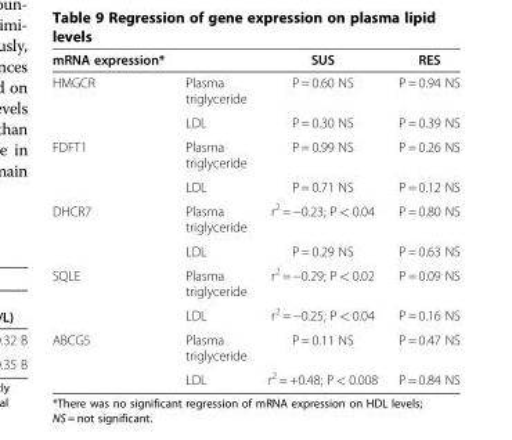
<table><thead><tr><td>mRNA expression*</td><td></td><td>SUS</td><td>RES</td></tr></thead><tbody><tr><td rowspan="2">HMGCR</td><td>Plasma triglyceride</td><td>P = 0.60 NS</td><td>P = 0.94 NS</td></tr><tr><td>LDL</td><td>P = 0.30 NS</td><td>P = 0.39 NS</td></tr><tr><td rowspan="2">FDFT1</td><td>Plasma triglyceride</td><td>P = 0.99 NS</td><td>P = 0.26 NS</td></tr><tr><td>LDL</td><td>P = 0.71 NS</td><td>P = 0.12 NS</td></tr><tr><td rowspan="2">DHCR7</td><td>Plasma triglyceride</td><td>r<sup>2</sup> = −0.23; P &lt; 0.04</td><td>P = 0.80 NS</td></tr><tr><td>LDL</td><td>P = 0.29 NS</td><td>P = 0.63 NS</td></tr><tr><td rowspan="2">SQLE</td><td>Plasma triglyceride</td><td>r<sup>2</sup> = −0.29; P &lt; 0.02</td><td>P = 0.09 NS</td></tr><tr><td>LDL</td><td>r<sup>2</sup> = −0.25; P &lt; 0.04</td><td>P = 0.16 NS</td></tr><tr><td rowspan="2">ABCG5</td><td>Plasma triglyceride</td><td>P = 0.11 NS</td><td>P = 0.47 NS</td></tr><tr><td>LDL</td><td>r<sup>2</sup> = +0.48; P &lt; 0.008</td><td>P = 0.84 NS</td></tr></tbody></table>